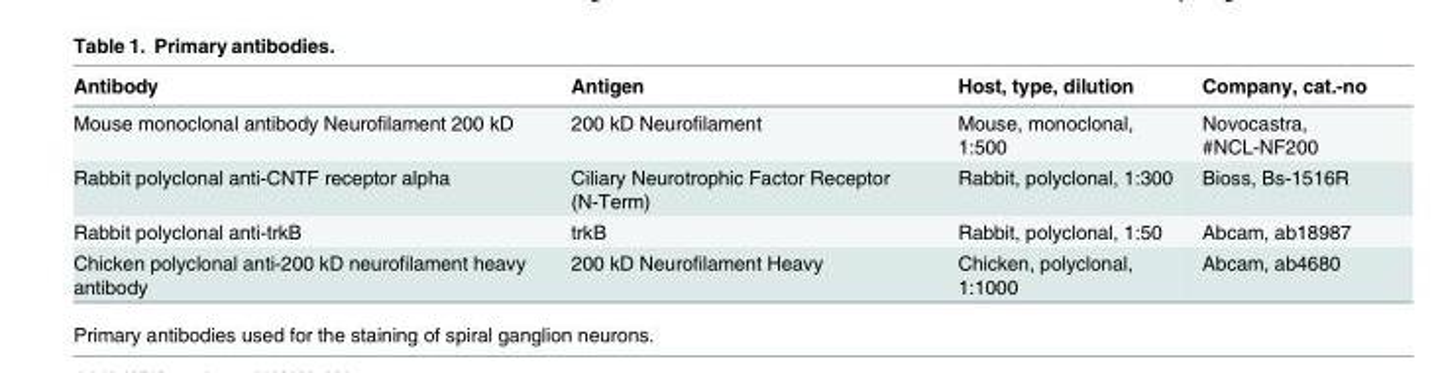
<table><thead><tr><td>Antibody</td><td>Antigen</td><td>Host, type, dilution</td><td>Company, cat.-no</td></tr></thead><tbody><tr><td>Mouse monoclonal antibody Neurofilament 200 kD</td><td>200 kD Neurofilament</td><td>Mouse, monoclonal, 1:500</td><td>Novocastra, #NCL-NF200</td></tr><tr><td>Rabbit polyclonal anti-CNTF receptor alpha</td><td>Ciliary Neurotrophic Factor Receptor (N-Term)</td><td>Rabbit, polyclonal, 1:300</td><td>Bioss, Bs-1516R</td></tr><tr><td>Rabbit polyclonal anti-trkB</td><td>trkB</td><td>Rabbit, polyclonal, 1:50</td><td>Abcam, ab18987</td></tr><tr><td>Chicken polyclonal anti-200 kD neurofilament heavy antibody</td><td>200 kD Neurofilament Heavy</td><td>Chicken, polyclonal, 1:1000</td><td>Abcam, ab4680</td></tr></tbody></table>